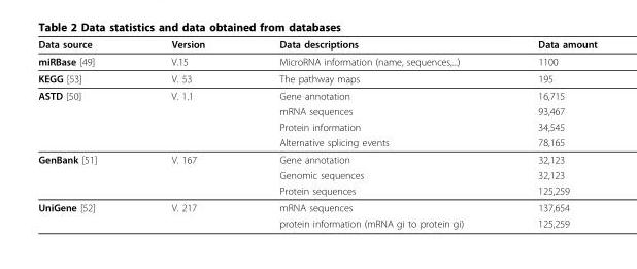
<table><thead><tr><td>Data source</td><td>Version</td><td>Data descriptions</td><td>Data amount</td></tr></thead><tbody><tr><td>miRBase [49]</td><td>V.15</td><td>MicroRNA information (name, sequences,...)</td><td>1100</td></tr><tr><td>KEGG [53]</td><td>V. 53</td><td>The pathway maps</td><td>195</td></tr><tr><td rowspan="4">ASTD [50]</td><td>V. 1.1</td><td>Gene annotation</td><td>16,715</td></tr><tr><td></td><td>mRNA sequences</td><td>93,467</td></tr><tr><td></td><td>Protein information</td><td>34,545</td></tr><tr><td></td><td>Alternative splicing events</td><td>78,165</td></tr><tr><td rowspan="3">GenBank [51]</td><td>V. 167</td><td>Gene annotation</td><td>32,123</td></tr><tr><td></td><td>Genomic sequences</td><td>32,123</td></tr><tr><td></td><td>Protein sequences</td><td>125,259</td></tr><tr><td rowspan="2">UniGene [52]</td><td>V. 217</td><td>mRNA sequences</td><td>137,654</td></tr><tr><td></td><td>protein information (mRNA gi to protein gi)</td><td>125,259</td></tr></tbody></table>